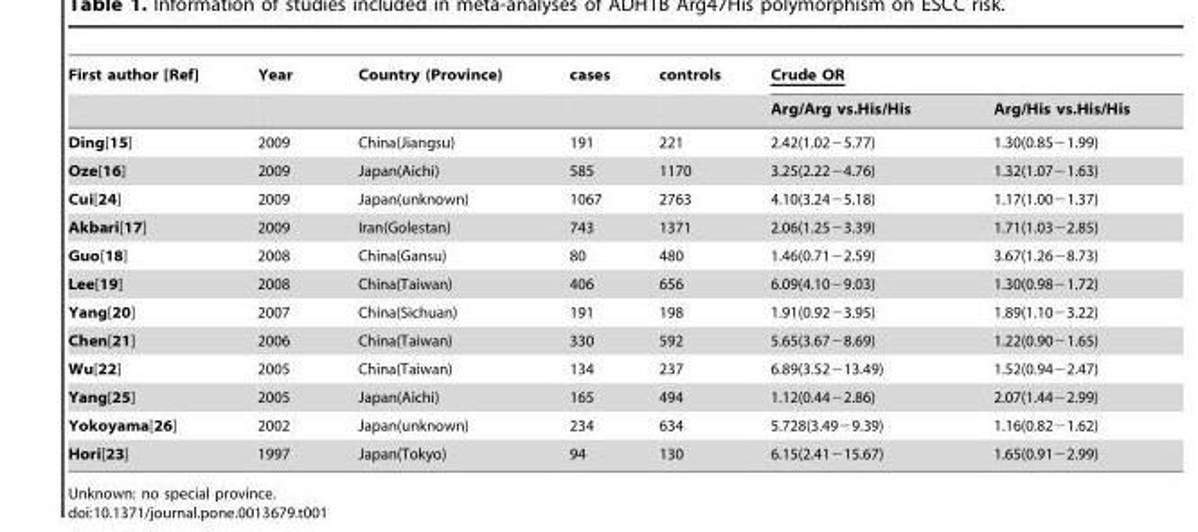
<table><thead><tr><td rowspan="2">First author [Ref]</td><td rowspan="2">Year</td><td rowspan="2">Country (Province)</td><td rowspan="2">cases</td><td rowspan="2">controls</td><td colspan="2">Crude OR</td></tr><tr><td>Arg/Arg vs.His/His</td><td>Arg/His vs.His/His</td></tr></thead><tbody><tr><td>Ding[15]</td><td>2009</td><td>China(Jiangsu)</td><td>191</td><td>221</td><td>2.42(1.02−5.77)</td><td>1.30(0.85−1.99)</td></tr><tr><td>Oze[16]</td><td>2009</td><td>Japan(Aichi)</td><td>585</td><td>1170</td><td>3.25(2.22−4.76)</td><td>1.32(1.07−1.63)</td></tr><tr><td>Cui[24]</td><td>2009</td><td>Japan(unknown)</td><td>1067</td><td>2763</td><td>4.10(3.24−5.18)</td><td>1.17(1.00−1.37)</td></tr><tr><td>Akbari[17]</td><td>2009</td><td>Iran(Golestan)</td><td>743</td><td>1371</td><td>2.06(1.25−3.39)</td><td>1.71(1.03−2.85)</td></tr><tr><td>Guo[18]</td><td>2008</td><td>China(Gansu)</td><td>80</td><td>480</td><td>1.46(0.71−2.59)</td><td>3.67(1.26−8.73)</td></tr><tr><td>Lee[19]</td><td>2008</td><td>China(Taiwan)</td><td>406</td><td>656</td><td>6.09(4.10−9.03)</td><td>1.30(0.98−1.72)</td></tr><tr><td>Yang[20]</td><td>2007</td><td>China(Sichuan)</td><td>191</td><td>198</td><td>1.91(0.92−3.95)</td><td>1.89(1.10−3.22)</td></tr><tr><td>Chen[21]</td><td>2006</td><td>China(Taiwan)</td><td>330</td><td>592</td><td>5.65(3.67−8.69)</td><td>1.22(0.90−1.65)</td></tr><tr><td>Wu[22]</td><td>2005</td><td>China(Taiwan)</td><td>134</td><td>237</td><td>6.89(3.52−13.49)</td><td>1.52(0.94−2.47)</td></tr><tr><td>Yang[25]</td><td>2005</td><td>Japan(Aichi)</td><td>165</td><td>494</td><td>1.12(0.44−2.86)</td><td>2.07(1.44−2.99)</td></tr><tr><td>Yokoyama[26]</td><td>2002</td><td>Japan(unknown)</td><td>234</td><td>634</td><td>5.728(3.49−9.39)</td><td>1.16(0.82−1.62)</td></tr><tr><td>Hori[23]</td><td>1997</td><td>Japan(Tokyo)</td><td>94</td><td>130</td><td>6.15(2.41−15.67)</td><td>1.65(0.91−2.99)</td></tr></tbody></table>